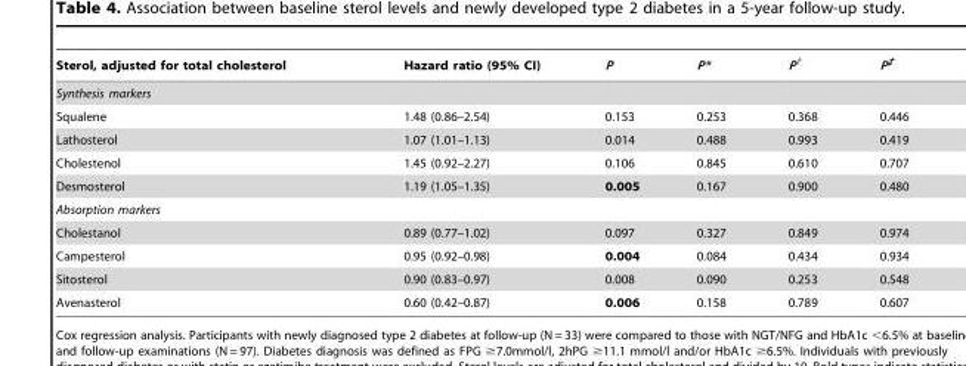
<table><thead><tr><td>Sterol, adjusted for total cholesterol</td><td>Hazard ratio (95% CI)</td><td>P</td><td>P*</td><td>P<sup>†</sup></td><td>P<sup>‡</sup></td></tr></thead><tbody><tr><td colspan="6">Synthesis markers</td></tr><tr><td>Squalene</td><td>1.48 (0.86–2.54)</td><td>0.153</td><td>0.253</td><td>0.368</td><td>0.446</td></tr><tr><td>Lathosterol</td><td>1.07 (1.01–1.13)</td><td>0.014</td><td>0.488</td><td>0.993</td><td>0.419</td></tr><tr><td>Cholestenol</td><td>1.45 (0.92–2.27)</td><td>0.106</td><td>0.845</td><td>0.610</td><td>0.707</td></tr><tr><td>Desmosterol</td><td>1.19 (1.05–1.35)</td><td>0.005</td><td>0.167</td><td>0.900</td><td>0.480</td></tr><tr><td colspan="6">Absorption markers</td></tr><tr><td>Cholestanol</td><td>0.89 (0.77–1.02)</td><td>0.097</td><td>0.327</td><td>0.849</td><td>0.974</td></tr><tr><td>Campesterol</td><td>0.95 (0.92–0.98)</td><td>0.004</td><td>0.084</td><td>0.434</td><td>0.934</td></tr><tr><td>Sitosterol</td><td>0.90 (0.83–0.97)</td><td>0.008</td><td>0.090</td><td>0.253</td><td>0.548</td></tr><tr><td>Avenasterol</td><td>0.60 (0.42–0.87)</td><td>0.006</td><td>0.158</td><td>0.789</td><td>0.607</td></tr></tbody></table>